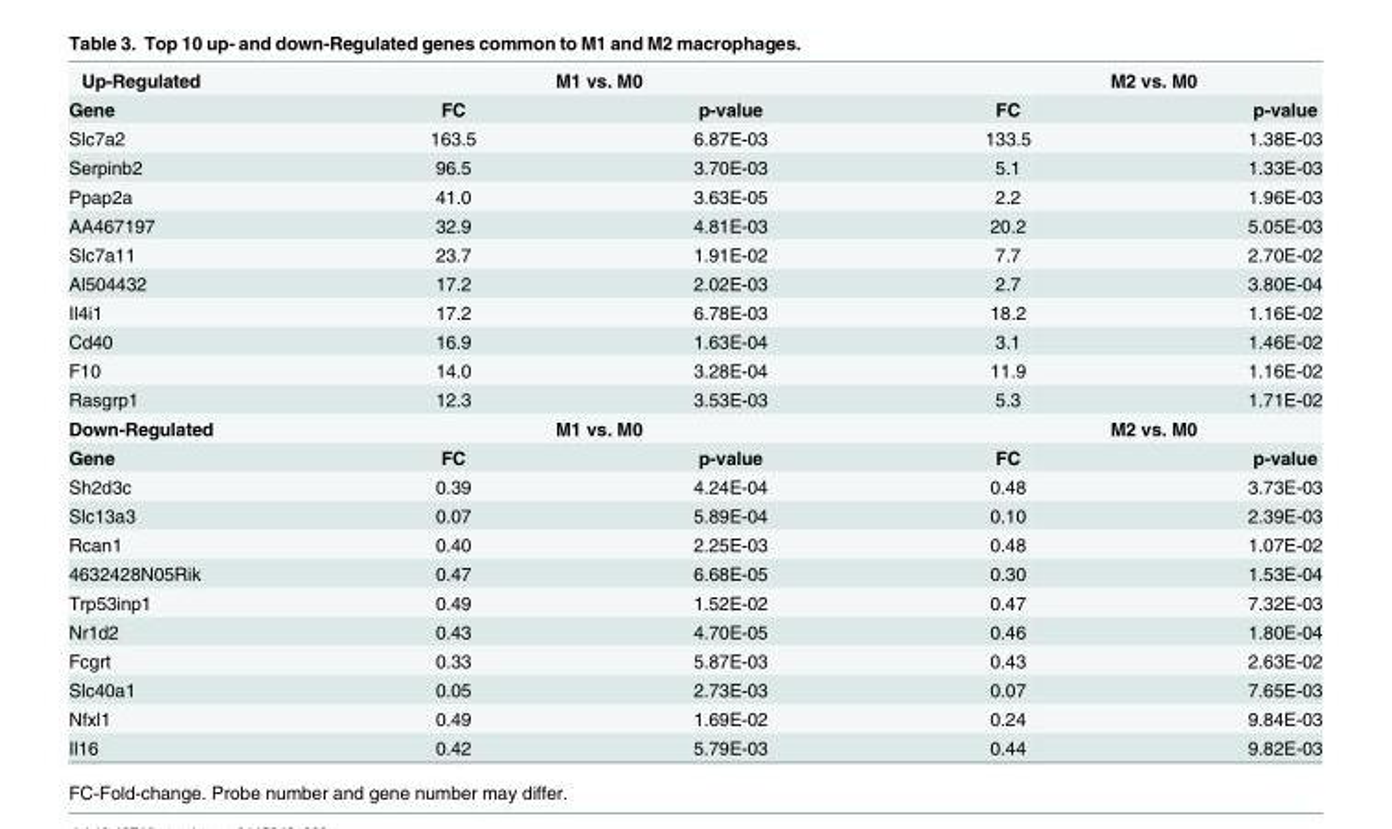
<table><tbody><tr><td>Up-Regulated</td><td colspan="2">M1 vs. M0</td><td colspan="2">M2 vs. M0</td></tr><tr><td>Gene</td><td>FC</td><td>p-value</td><td>FC</td><td>p-value</td></tr><tr><td>Slc7a2</td><td>163.5</td><td>6.87E-03</td><td>133.5</td><td>1.38E-03</td></tr><tr><td>Serpinb2</td><td>96.5</td><td>3.70E-03</td><td>5.1</td><td>1.33E-03</td></tr><tr><td>Ppap2a</td><td>41.0</td><td>3.63E-05</td><td>2.2</td><td>1.96E-03</td></tr><tr><td>AA467197</td><td>32.9</td><td>4.81E-03</td><td>20.2</td><td>5.05E-03</td></tr><tr><td>Slc7a11</td><td>23.7</td><td>1.91E-02</td><td>7.7</td><td>2.70E-02</td></tr><tr><td>Al504432</td><td>17.2</td><td>2.02E-03</td><td>2.7</td><td>3.80E-04</td></tr><tr><td>Il4i1</td><td>17.2</td><td>6.78E-03</td><td>18.2</td><td>1.16E-02</td></tr><tr><td>Cd40</td><td>16.9</td><td>1.63E-04</td><td>3.1</td><td>1.46E-02</td></tr><tr><td>F10</td><td>14.0</td><td>3.28E-04</td><td>11.9</td><td>1.16E-02</td></tr><tr><td>Rasgrp1</td><td>12.3</td><td>3.53E-03</td><td>5.3</td><td>1.71E-02</td></tr><tr><td>Down-Regulated</td><td colspan="2">M1 vs. M0</td><td colspan="2">M2 vs. M0</td></tr><tr><td>Gene</td><td>FC</td><td>p-value</td><td>FC</td><td>p-value</td></tr><tr><td>Sh2d3c</td><td>0.39</td><td>4.24E-04</td><td>0.48</td><td>3.73E-03</td></tr><tr><td>Slc13a3</td><td>0.07</td><td>5.89E-04</td><td>0.10</td><td>2.39E-03</td></tr><tr><td>Rcan1</td><td>0.40</td><td>2.25E-03</td><td>0.48</td><td>1.07E-02</td></tr><tr><td>4632428N05Rik</td><td>0.47</td><td>6.68E-05</td><td>0.30</td><td>1.53E-04</td></tr><tr><td>Trp53inp1</td><td>0.49</td><td>1.52E-02</td><td>0.47</td><td>7.32E-03</td></tr><tr><td>Nr1d2</td><td>0.43</td><td>4.70E-05</td><td>0.46</td><td>1.80E-04</td></tr><tr><td>Fcgrt</td><td>0.33</td><td>5.87E-03</td><td>0.43</td><td>2.63E-02</td></tr><tr><td>Slc40a1</td><td>0.05</td><td>2.73E-03</td><td>0.07</td><td>7.65E-03</td></tr><tr><td>Nfxl1</td><td>0.49</td><td>1.69E-02</td><td>0.24</td><td>9.84E-03</td></tr><tr><td>Il16</td><td>0.42</td><td>5.79E-03</td><td>0.44</td><td>9.82E-03</td></tr></tbody></table>